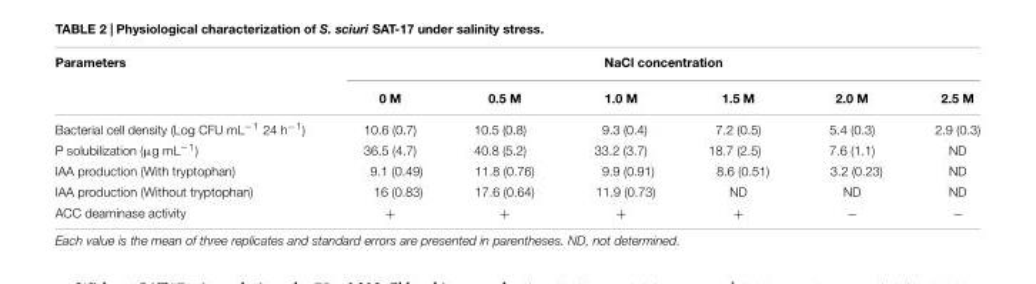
<table><thead><tr><td rowspan="2">Parameters</td><td colspan="6">NaCl concentration</td></tr><tr><td>0 M</td><td>0.5 M</td><td>1.0 M</td><td>1.5 M</td><td>2.0 M</td><td>2.5 M</td></tr></thead><tbody><tr><td>Bacterial cell density (Log CFU mL<sup>−1</sup> 24 h<sup>−1</sup>)</td><td>10.6 (0.7)</td><td>10.5 (0.8)</td><td>9.3 (0.4)</td><td>7.2 (0.5)</td><td>5.4 (0.3)</td><td>2.9 (0.3)</td></tr><tr><td>P solubilization (µg mL<sup>−1</sup>)</td><td>36.5 (4.7)</td><td>40.8 (5.2)</td><td>33.2 (3.7)</td><td>18.7 (2.5)</td><td>7.6 (1.1)</td><td>ND</td></tr><tr><td>IAA production (With tryptophan)</td><td>9.1 (0.49)</td><td>11.8 (0.76)</td><td>9.9 (0.91)</td><td>8.6 (0.51)</td><td>3.2 (0.23)</td><td>ND</td></tr><tr><td>IAA production (Without tryptophan)</td><td>16 (0.83)</td><td>17.6 (0.64)</td><td>11.9 (0.73)</td><td>ND</td><td>ND</td><td>ND</td></tr><tr><td>ACC deaminase activity</td><td>+</td><td>+</td><td>+</td><td>+</td><td>−</td><td>−</td></tr></tbody></table>